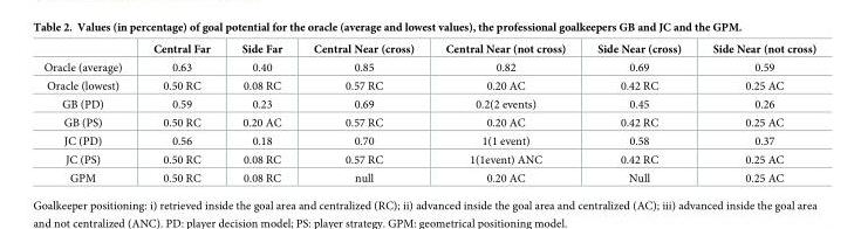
<table><thead><tr><td></td><td>Central Far</td><td>Side Far</td><td>Central Near (cross)</td><td>Central Near (not cross)</td><td>Side Near (cross)</td><td>Side Near (not cross)</td></tr></thead><tbody><tr><td>Oracle (average)</td><td>0.63</td><td>0.40</td><td>0.85</td><td>0.82</td><td>0.69</td><td>0.59</td></tr><tr><td>Oracle (lowest)</td><td>0.50 RC</td><td>0.08 RC</td><td>0.57 RC</td><td>0.20 AC</td><td>0.42 RC</td><td>0.25 AC</td></tr><tr><td>GB (PD)</td><td>0.59</td><td>0.23</td><td>0.69</td><td>0.2(2 events)</td><td>0.45</td><td>0.26</td></tr><tr><td>GB (PS)</td><td>0.50 RC</td><td>0.20 AC</td><td>0.57 RC</td><td>0.20 AC</td><td>0.42 RC</td><td>0.25 AC</td></tr><tr><td>JC (PD)</td><td>0.56</td><td>0.18</td><td>0.70</td><td>1(1 event)</td><td>0.58</td><td>0.37</td></tr><tr><td>JC (PS)</td><td>0.50 RC</td><td>0.08 RC</td><td>0.57 RC</td><td>1(1event) ANC</td><td>0.42 RC</td><td>0.25 AC</td></tr><tr><td>GPM</td><td>0.50 RC</td><td>0.08 RC</td><td>null</td><td>0.20 AC</td><td>Null</td><td>0.25 AC</td></tr></tbody></table>